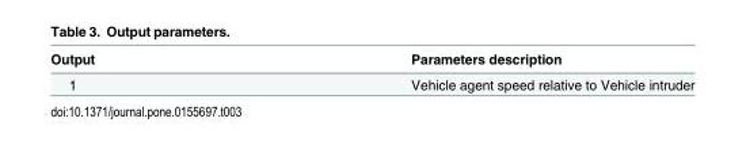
<table><thead><tr><td>Output</td><td>Parameters description</td></tr></thead><tbody><tr><td>1</td><td>Vehicle agent speed relative to Vehicle intruder</td></tr></tbody></table>